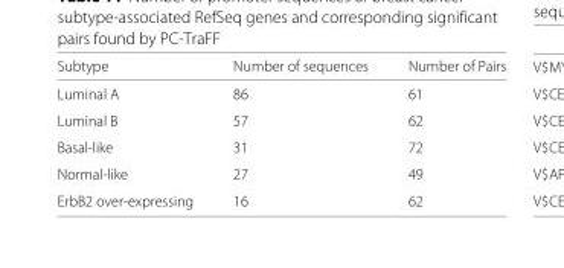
<table><thead><tr><td>Subtype</td><td>Number of sequences</td><td>Number of Pairs</td></tr></thead><tbody><tr><td>Luminal A</td><td>86</td><td>61</td></tr><tr><td>Luminal B</td><td>57</td><td>62</td></tr><tr><td>Basal-like</td><td>31</td><td>72</td></tr><tr><td>Normal-like</td><td>27</td><td>49</td></tr><tr><td>ErbB2 over-expressing</td><td>16</td><td>62</td></tr></tbody></table>